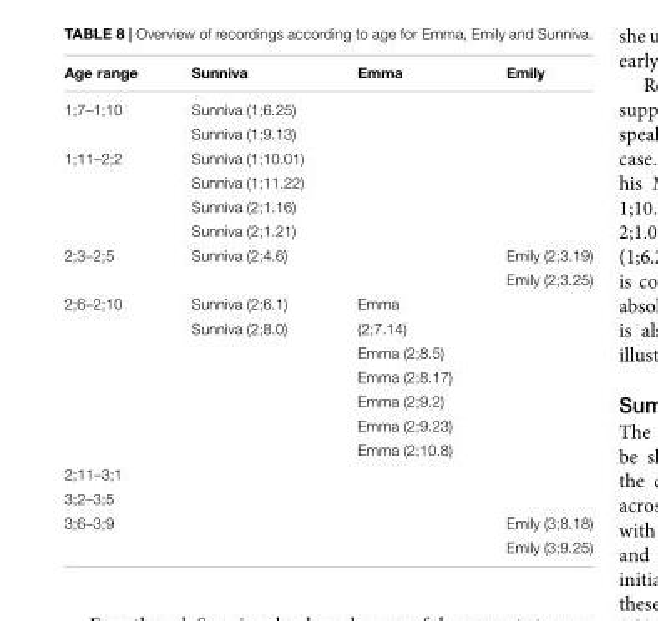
<table><thead><tr><td>Age range</td><td>Sunniva</td><td>Emma</td><td>Emily</td></tr></thead><tbody><tr><td rowspan="2">1;7–1;10</td><td>Sunniva (1;6.25)</td><td></td><td></td></tr><tr><td>Sunniva (1;9.13)</td><td></td><td></td></tr><tr><td rowspan="4">1;11–2;2</td><td>Sunniva (1;10.01)</td><td></td><td></td></tr><tr><td>Sunniva (1;11.22)</td><td></td><td></td></tr><tr><td>Sunniva (2;1.16)</td><td></td><td></td></tr><tr><td>Sunniva (2;1.21)</td><td></td><td></td></tr><tr><td rowspan="2">2;3–2;5</td><td>Sunniva (2;4.6)</td><td></td><td>Emily (2;3.19)</td></tr><tr><td></td><td></td><td>Emily (2;3.25)</td></tr><tr><td rowspan="7">2;6–2;10</td><td>Sunniva (2;6.1)</td><td>Emma</td><td></td></tr><tr><td>Sunniva (2;8.0)</td><td>(2;7.14)</td><td></td></tr><tr><td></td><td>Emma (2;8.5)</td><td></td></tr><tr><td></td><td>Emma (2;8.17)</td><td></td></tr><tr><td></td><td>Emma (2;9.2)</td><td></td></tr><tr><td></td><td>Emma (2;9.23)</td><td></td></tr><tr><td></td><td>Emma (2;10.8)</td><td></td></tr><tr><td colspan="4">2;11–3;1</td></tr><tr><td colspan="4">3;2–3;5</td></tr><tr><td rowspan="2">3;6–3;9</td><td></td><td></td><td>Emily (3;8.18)</td></tr><tr><td></td><td></td><td>Emily (3;9.25)</td></tr></tbody></table>